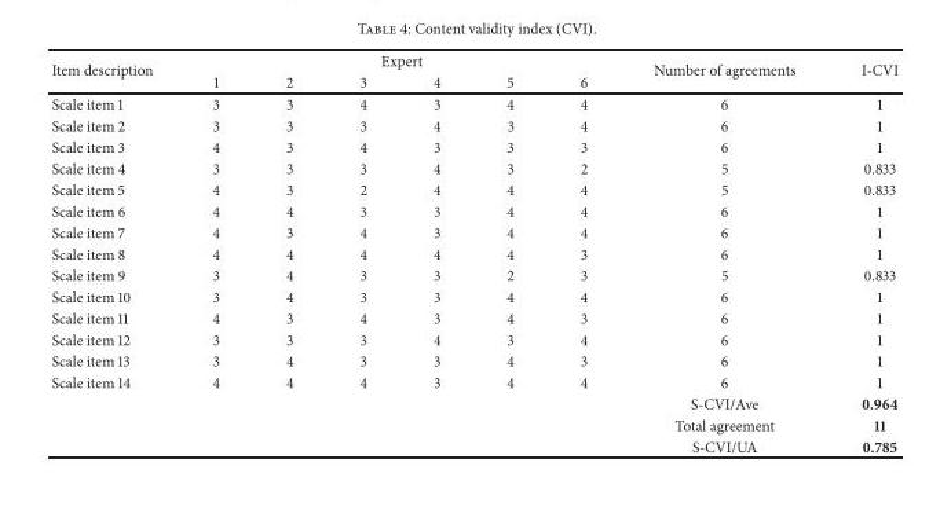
<table><thead><tr><td rowspan="2">Item description</td><td colspan="6">Expert</td><td rowspan="2">Number of agreements</td><td rowspan="2">I-CVI</td></tr><tr><td>1</td><td>2</td><td>3</td><td>4</td><td>5</td><td>6</td></tr></thead><tbody><tr><td>Scale item 1</td><td>3</td><td>3</td><td>4</td><td>3</td><td>4</td><td>4</td><td>6</td><td>1</td></tr><tr><td>Scale item 2</td><td>3</td><td>3</td><td>3</td><td>4</td><td>3</td><td>4</td><td>6</td><td>1</td></tr><tr><td>Scale item 3</td><td>4</td><td>3</td><td>4</td><td>3</td><td>3</td><td>3</td><td>6</td><td>1</td></tr><tr><td>Scale item 4</td><td>3</td><td>3</td><td>3</td><td>4</td><td>3</td><td>2</td><td>5</td><td>0.833</td></tr><tr><td>Scale item 5</td><td>4</td><td>3</td><td>2</td><td>4</td><td>4</td><td>4</td><td>5</td><td>0.833</td></tr><tr><td>Scale item 6</td><td>4</td><td>4</td><td>3</td><td>3</td><td>4</td><td>4</td><td>6</td><td>1</td></tr><tr><td>Scale item 7</td><td>4</td><td>3</td><td>4</td><td>3</td><td>4</td><td>4</td><td>6</td><td>1</td></tr><tr><td>Scale item 8</td><td>4</td><td>4</td><td>4</td><td>4</td><td>4</td><td>3</td><td>6</td><td>1</td></tr><tr><td>Scale item 9</td><td>3</td><td>4</td><td>3</td><td>3</td><td>2</td><td>3</td><td>5</td><td>0.833</td></tr><tr><td>Scale item 10</td><td>3</td><td>4</td><td>3</td><td>3</td><td>4</td><td>4</td><td>6</td><td>1</td></tr><tr><td>Scale item 11</td><td>4</td><td>3</td><td>4</td><td>3</td><td>4</td><td>3</td><td>6</td><td>1</td></tr><tr><td>Scale item 12</td><td>3</td><td>3</td><td>3</td><td>4</td><td>3</td><td>4</td><td>6</td><td>1</td></tr><tr><td>Scale item 13</td><td>3</td><td>4</td><td>3</td><td>3</td><td>4</td><td>3</td><td>6</td><td>1</td></tr><tr><td>Scale item 14</td><td>4</td><td>4</td><td>4</td><td>3</td><td>4</td><td>4</td><td>6</td><td>1</td></tr><tr><td rowspan="3" colspan="7"></td><td>S-CVI/Ave</td><td>0.964</td></tr><tr><td>Total agreement</td><td>11</td></tr><tr><td>S-CVI/UA</td><td>0.785</td></tr></tbody></table>